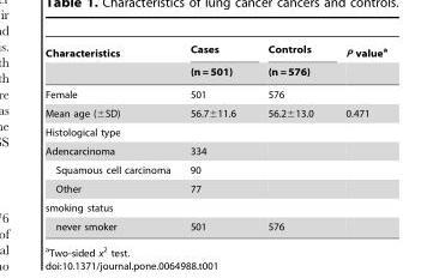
<table><thead><tr><td rowspan="2">Characteristics</td><td rowspan="2">Cases (n = 501)</td><td rowspan="2">Controls (n = 576)</td><td rowspan="2">P value<sup>a</sup></td></tr><tr></tr></thead><tbody><tr><td>Female</td><td>501</td><td>576</td><td></td></tr><tr><td>Mean age (±SD)</td><td>56.7±11.6</td><td>56.2±13.0</td><td>0.471</td></tr><tr><td colspan="4">Histological type</td></tr><tr><td>Adencarcinoma</td><td>334</td><td></td><td></td></tr><tr><td>Squamous cell carcinoma</td><td>90</td><td></td><td></td></tr><tr><td>Other</td><td>77</td><td></td><td></td></tr><tr><td colspan="4">smoking status</td></tr><tr><td>never smoker</td><td>501</td><td>576</td><td></td></tr></tbody></table>